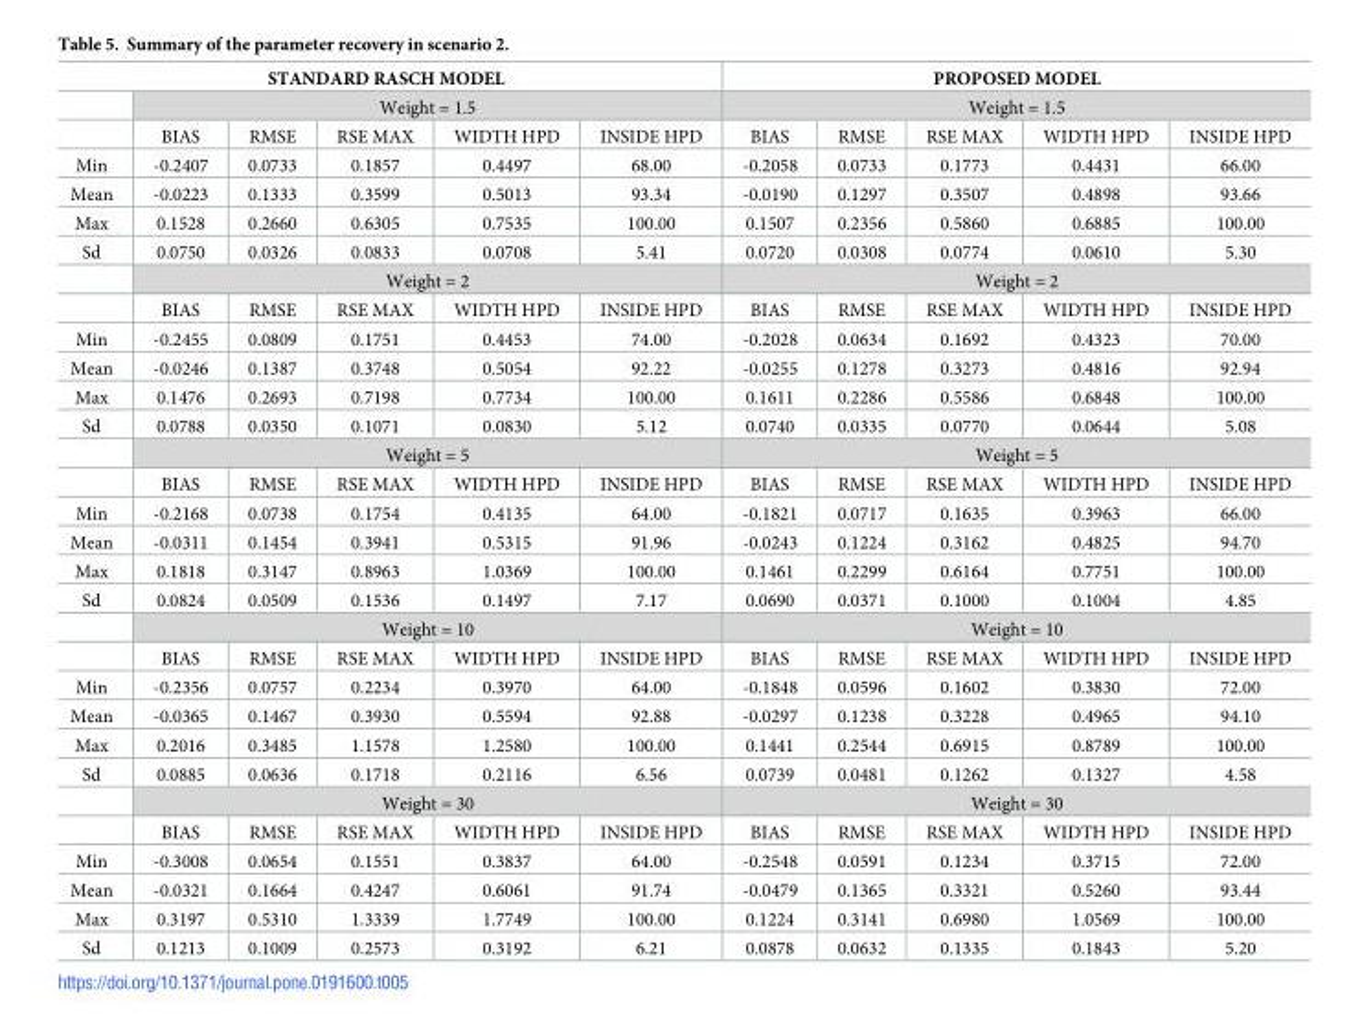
<table><thead><tr><td colspan="6">STANDARD RASCH MODEL</td><td rowspan="2" colspan="5">PROPOSED MODEL Weight = 1.5</td></tr><tr><td rowspan="2"></td><td colspan="5">Weight = 1.5</td></tr><tr><td>BIAS</td><td>RMSE</td><td>RSE MAX</td><td>WIDTH HPD</td><td>INSIDE HPD</td><td>BIAS</td><td>RMSE</td><td>RSE MAX</td><td>WIDTH HPD</td><td>INSIDE HPD</td></tr></thead><tbody><tr><td>Min</td><td>-0.2407</td><td>0.0733</td><td>0.1857</td><td>0.4497</td><td>68.00</td><td>-0.2058</td><td>0.0733</td><td>0.1773</td><td>0.4431</td><td>66.00</td></tr><tr><td>Mean</td><td>-0.0223</td><td>0.1333</td><td>0.3599</td><td>0.5013</td><td>93.34</td><td>-0.0190</td><td>0.1297</td><td>0.3507</td><td>0.4898</td><td>93.66</td></tr><tr><td>Max</td><td>0.1528</td><td>0.2660</td><td>0.6305</td><td>0.7535</td><td>100.00</td><td>0.1507</td><td>0.2356</td><td>0.5860</td><td>0.6885</td><td>100.00</td></tr><tr><td rowspan="3">Sd</td><td>0.0750</td><td>0.0326</td><td>0.0833</td><td>0.0708</td><td>5.41</td><td>0.0720</td><td>0.0308</td><td>0.0774</td><td>0.0610</td><td>5.30</td></tr><tr><td colspan="5">Weight = 2</td><td colspan="5">Weight = 2</td></tr><tr><td>BIAS</td><td>RMSE</td><td>RSE MAX</td><td>WIDTH HPD</td><td>INSIDE HPD</td><td>BIAS</td><td>RMSE</td><td>RSE MAX</td><td>WIDTH HPD</td><td>INSIDE HPD</td></tr><tr><td>Min</td><td>-0.2455</td><td>0.0809</td><td>0.1751</td><td>0.4453</td><td>74.00</td><td>-0.2028</td><td>0.0634</td><td>0.1692</td><td>0.4323</td><td>70.00</td></tr><tr><td>Mean</td><td>-0.0246</td><td>0.1387</td><td>0.3748</td><td>0.5054</td><td>92.22</td><td>-0.0255</td><td>0.1278</td><td>0.3273</td><td>0.4816</td><td>92.94</td></tr><tr><td>Max</td><td>0.1476</td><td>0.2693</td><td>0.7198</td><td>0.7734</td><td>100.00</td><td>0.1611</td><td>0.2286</td><td>0.5586</td><td>0.6848</td><td>100.00</td></tr><tr><td rowspan="3">Sd</td><td>0.0788</td><td>0.0350</td><td>0.1071</td><td>0.0830</td><td>5.12</td><td>0.0740</td><td>0.0335</td><td>0.0770</td><td>0.0644</td><td>5.08</td></tr><tr><td colspan="5">Weight = 5</td><td colspan="5">Weight = 5</td></tr><tr><td>BIAS</td><td>RMSE</td><td>RSE MAX</td><td>WIDTH HPD</td><td>INSIDE HPD</td><td>BIAS</td><td>RMSE</td><td>RSE MAX</td><td>WIDTH HPD</td><td>INSIDE HPD</td></tr><tr><td>Min</td><td>-0.2168</td><td>0.0738</td><td>0.1754</td><td>0.4135</td><td>64.00</td><td>-0.1821</td><td>0.0717</td><td>0.1635</td><td>0.3963</td><td>66.00</td></tr><tr><td>Mean</td><td>-0.0311</td><td>0.1454</td><td>0.3941</td><td>0.5315</td><td>91.96</td><td>-0.0243</td><td>0.1224</td><td>0.3162</td><td>0.4825</td><td>94.70</td></tr><tr><td>Max</td><td>0.1818</td><td>0.3147</td><td>0.8963</td><td>1.0369</td><td>100.00</td><td>0.1461</td><td>0.2299</td><td>0.6164</td><td>0.7751</td><td>100.00</td></tr><tr><td rowspan="3">Sd</td><td>0.0824</td><td>0.0509</td><td>0.1536</td><td>0.1497</td><td>7.17</td><td>0.0690</td><td>0.0371</td><td>0.1000</td><td>0.1004</td><td>4.85</td></tr><tr><td colspan="5">Weight = 10</td><td colspan="5">Weight = 10</td></tr><tr><td>BIAS</td><td>RMSE</td><td>RSE MAX</td><td>WIDTH HPD</td><td>INSIDE HPD</td><td>BIAS</td><td>RMSE</td><td>RSE MAX</td><td>WIDTH HPD</td><td>INSIDE HPD</td></tr><tr><td>Min</td><td>-0.2356</td><td>0.0757</td><td>0.2234</td><td>0.3970</td><td>64.00</td><td>-0.1848</td><td>0.0596</td><td>0.1602</td><td>0.3830</td><td>72.00</td></tr><tr><td>Mean</td><td>-0.0365</td><td>0.1467</td><td>0.3930</td><td>0.5594</td><td>92.88</td><td>-0.0297</td><td>0.1238</td><td>0.3228</td><td>0.4965</td><td>94.10</td></tr><tr><td>Max</td><td>0.2016</td><td>0.3485</td><td>1.1578</td><td>1.2580</td><td>100.00</td><td>0.1441</td><td>0.2544</td><td>0.6915</td><td>0.8789</td><td>100.00</td></tr><tr><td rowspan="3">Sd</td><td>0.0885</td><td>0.0636</td><td>0.1718</td><td>0.2116</td><td>6.56</td><td>0.0739</td><td>0.0481</td><td>0.1262</td><td>0.1327</td><td>4.58</td></tr><tr><td colspan="5">Weight = 30</td><td colspan="5">Weight = 30</td></tr><tr><td>BIAS</td><td>RMSE</td><td>RSE MAX</td><td>WIDTH HPD</td><td>INSIDE HPD</td><td>BIAS</td><td>RMSE</td><td>RSE MAX</td><td>WIDTH HPD</td><td>INSIDE HPD</td></tr><tr><td>Min</td><td>-0.3008</td><td>0.0654</td><td>0.1551</td><td>0.3837</td><td>64.00</td><td>-0.2548</td><td>0.0591</td><td>0.1234</td><td>0.3715</td><td>72.00</td></tr><tr><td>Mean</td><td>-0.0321</td><td>0.1664</td><td>0.4247</td><td>0.6061</td><td>91.74</td><td>-0.0479</td><td>0.1365</td><td>0.3321</td><td>0.5260</td><td>93.44</td></tr><tr><td>Max</td><td>0.3197</td><td>0.5310</td><td>1.3339</td><td>1.7749</td><td>100.00</td><td>0.1224</td><td>0.3141</td><td>0.6980</td><td>1.0569</td><td>100.00</td></tr><tr><td>Sd</td><td>0.1213</td><td>0.1009</td><td>0.2573</td><td>0.3192</td><td>6.21</td><td>0.0878</td><td>0.0632</td><td>0.1335</td><td>0.1843</td><td>5.20</td></tr></tbody></table>